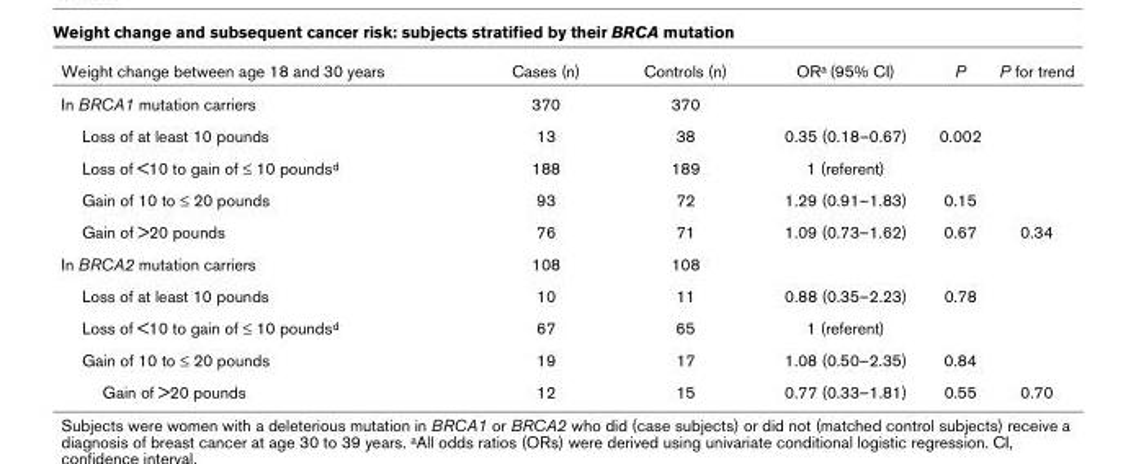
<table><thead><tr><td>Weight change between age 18 and 30 years</td><td>Cases (n)</td><td>Controls (n)</td><td>ORa (95% CI)</td><td>P</td><td>P for trend</td></tr></thead><tbody><tr><td>In BRCA1 mutation carriers</td><td>370</td><td>370</td><td></td><td></td><td></td></tr><tr><td>Loss of at least 10 pounds</td><td>13</td><td>38</td><td>0.35 (0.18–0.67)</td><td>0.002</td><td></td></tr><tr><td>Loss of &lt;10 to gain of ≤ 10 poundsd</td><td>188</td><td>189</td><td>1 (referent)</td><td></td><td></td></tr><tr><td>Gain of 10 to ≤ 20 pounds</td><td>93</td><td>72</td><td>1.29 (0.91–1.83)</td><td>0.15</td><td></td></tr><tr><td>Gain of &gt;20 pounds</td><td>76</td><td>71</td><td>1.09 (0.73–1.62)</td><td>0.67</td><td>0.34</td></tr><tr><td>In BRCA2 mutation carriers</td><td>108</td><td>108</td><td></td><td></td><td></td></tr><tr><td>Loss of at least 10 pounds</td><td>10</td><td>11</td><td>0.88 (0.35–2.23)</td><td>0.78</td><td></td></tr><tr><td>Loss of &lt;10 to gain of ≤ 10 poundsd</td><td>67</td><td>65</td><td>1 (referent)</td><td></td><td></td></tr><tr><td>Gain of 10 to ≤ 20 pounds</td><td>19</td><td>17</td><td>1.08 (0.50–2.35)</td><td>0.84</td><td></td></tr><tr><td>Gain of &gt;20 pounds</td><td>12</td><td>15</td><td>0.77 (0.33–1.81)</td><td>0.55</td><td>0.70</td></tr></tbody></table>